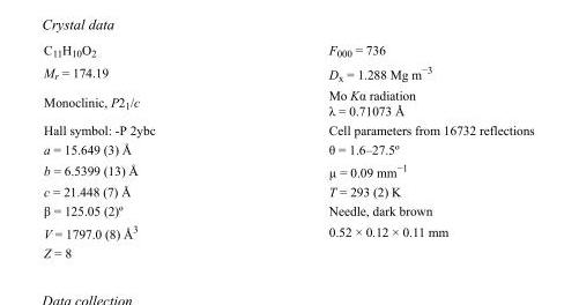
<table><tbody><tr><td>C<sub>11</sub>H<sub>10</sub>O<sub>2</sub></td><td>F000 = 736</td></tr><tr><td>M<sub>r</sub> = 174.19</td><td>D<sub>x</sub> = 1.288 Mg m<sup>−3</sup></td></tr><tr><td>Monoclinic, P2<sub>1</sub>/c</td><td>Mo Kα radiation λ = 0.71073 Å</td></tr><tr><td>Hall symbol: -P 2ybc</td><td>Cell parameters from 16732 reflections</td></tr><tr><td>a = 15.649 (3) Å</td><td>θ = 1.6–27.5º</td></tr><tr><td>b = 6.5399 (13) Å</td><td>µ = 0.09 mm<sup>−1</sup></td></tr><tr><td>c = 21.448 (7) Å</td><td>T = 293 (2) K</td></tr><tr><td>β = 125.05 (2)º</td><td>Needle, dark brown</td></tr><tr><td>V = 1797.0 (8) Å<sup>3</sup></td><td>0.52 × 0.12 × 0.11 mm</td></tr><tr><td>Z = 8</td><td></td></tr></tbody></table>